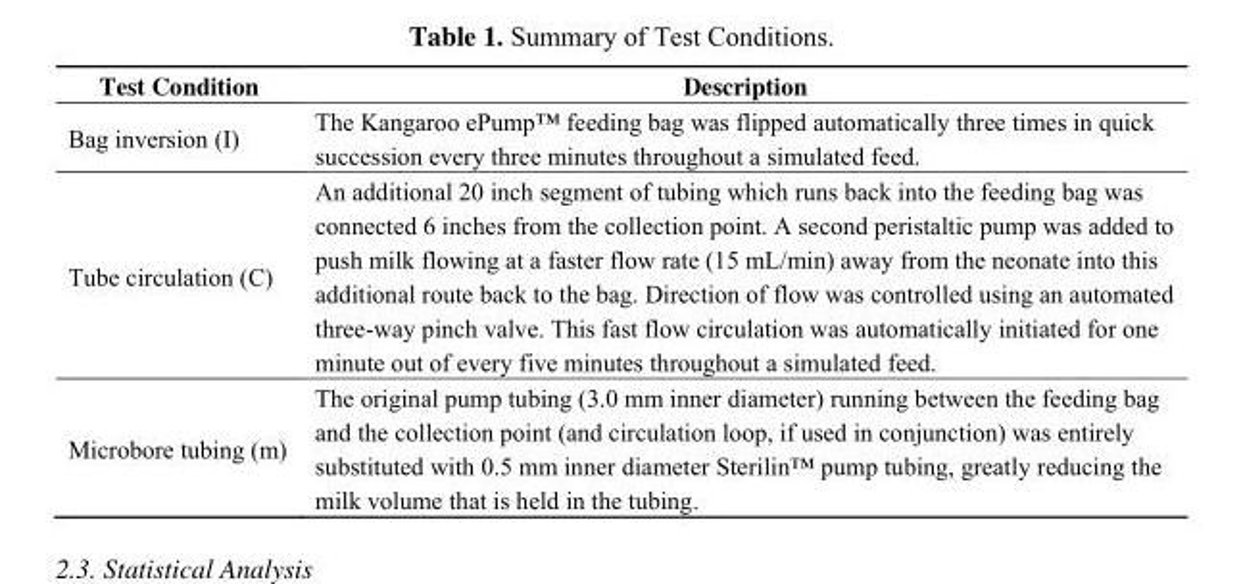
<table><thead><tr><td>Test Condition</td><td>Description</td></tr></thead><tbody><tr><td>Bag inversion (I)</td><td>The Kangaroo ePump™ feeding bag was flipped automatically three times in quick succession every three minutes throughout a simulated feed.</td></tr><tr><td>Tube circulation (C)</td><td>An additional 20 inch segment of tubing which runs back into the feeding bag was connected 6 inches from the collection point. A second peristaltic pump was added to push milk flowing at a faster flow rate (15 mL/min) away from the neonate into this additional route back to the bag. Direction of flow was controlled using an automated three-way pinch valve. This fast flow circulation was automatically initiated for one minute out of every five minutes throughout a simulated feed.</td></tr><tr><td>Microbore tubing (m)</td><td>The original pump tubing (3.0 mm inner diameter) running between the feeding bag and the collection point (and circulation loop, if used in conjunction) was entirely substituted with 0.5 mm inner diameter Sterilin™ pump tubing, greatly reducing the milk volume that is held in the tubing.</td></tr></tbody></table>